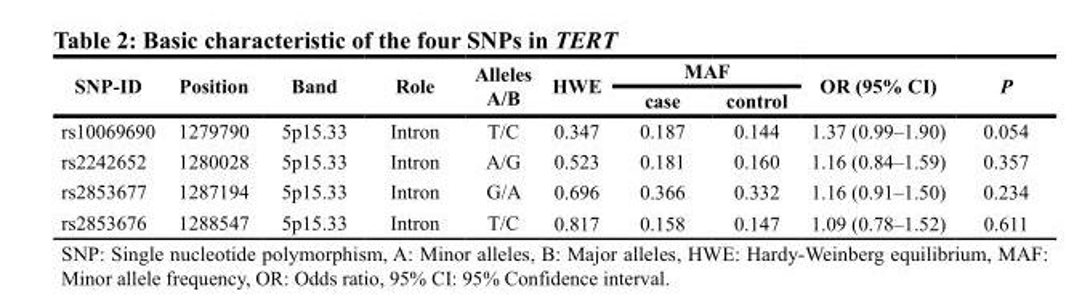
<table><thead><tr><td rowspan="2">SNP-ID</td><td rowspan="2">Position</td><td rowspan="2">Band</td><td rowspan="2">Role</td><td rowspan="2">Alleles A/B</td><td rowspan="2">HWE</td><td colspan="2">MAF</td><td rowspan="2">OR (95% CI)</td><td rowspan="2">P</td></tr><tr><td>case</td><td>control</td></tr></thead><tbody><tr><td>rs10069690</td><td>1279790</td><td>5p15.33</td><td>Intron</td><td>T/C</td><td>0.347</td><td>0.187</td><td>0.144</td><td>1.37 (0.99–1.90)</td><td>0.054</td></tr><tr><td>rs2242652</td><td>1280028</td><td>5p15.33</td><td>Intron</td><td>A/G</td><td>0.523</td><td>0.181</td><td>0.160</td><td>1.16 (0.84–1.59)</td><td>0.357</td></tr><tr><td>rs2853677</td><td>1287194</td><td>5p15.33</td><td>Intron</td><td>G/A</td><td>0.696</td><td>0.366</td><td>0.332</td><td>1.16 (0.91–1.50)</td><td>0.234</td></tr><tr><td>rs2853676</td><td>1288547</td><td>5p15.33</td><td>Intron</td><td>T/C</td><td>0.817</td><td>0.158</td><td>0.147</td><td>1.09 (0.78–1.52)</td><td>0.611</td></tr></tbody></table>